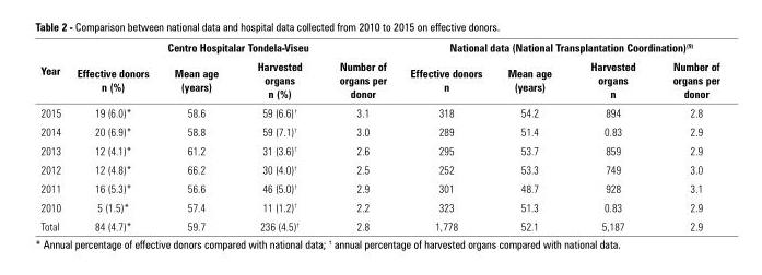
<table><thead><tr><td rowspan="2">Year</td><td colspan="4">Centro Hospitalar Tondela-Viseu</td><td colspan="4">National data (National Transplantation Coordination)<sup>(9)</sup></td></tr><tr><td>Effective donors n (%)</td><td>Mean age (years)</td><td>Harvested organs n (%)</td><td>Number of organs per donor</td><td>Effective donors n</td><td>Mean age (years)</td><td>Harvested organs n</td><td>Number of organs per donor</td></tr></thead><tbody><tr><td>2015</td><td>19 (6.0)*</td><td>58.6</td><td>59 (6.6)†</td><td>3.1</td><td>318</td><td>54.2</td><td>894</td><td>2.8</td></tr><tr><td>2014</td><td>20 (6.9)*</td><td>58.8</td><td>59 (7.1)†</td><td>3.0</td><td>289</td><td>51.4</td><td>0.83</td><td>2.9</td></tr><tr><td>2013</td><td>12 (4.1)*</td><td>61.2</td><td>31 (3.6)†</td><td>2.6</td><td>295</td><td>53.7</td><td>859</td><td>2.9</td></tr><tr><td>2012</td><td>12 (4.8)*</td><td>66.2</td><td>30 (4.0)†</td><td>2.5</td><td>252</td><td>53.3</td><td>749</td><td>3.0</td></tr><tr><td>2011</td><td>16 (5.3)*</td><td>56.6</td><td>46 (5.0)†</td><td>2.9</td><td>301</td><td>48.7</td><td>928</td><td>3.1</td></tr><tr><td>2010</td><td>5 (1.5)*</td><td>57.4</td><td>11 (1.2)†</td><td>2.2</td><td>323</td><td>51.3</td><td>0.83</td><td>2.9</td></tr><tr><td>Total</td><td>84 (4.7)*</td><td>59.7</td><td>236 (4.5)†</td><td>2.8</td><td>1,778</td><td>52.1</td><td>5,187</td><td>2.9</td></tr></tbody></table>